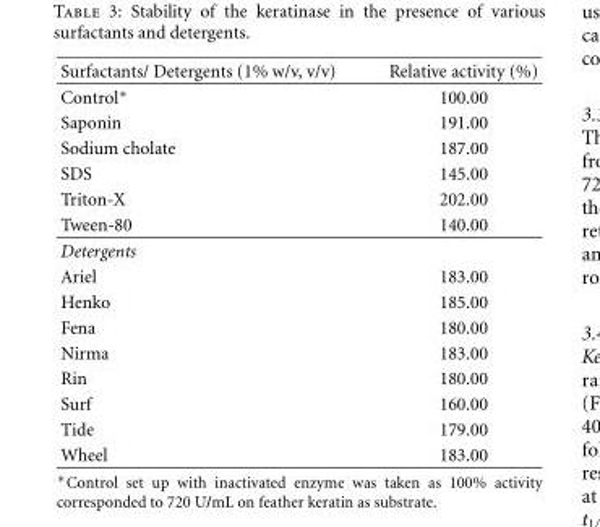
<table><thead><tr><td>Surfactants/ Detergents (1% w/v, v/v)</td><td>Relative activity (%)</td></tr></thead><tbody><tr><td>Control∗</td><td>100.00</td></tr><tr><td>Saponin</td><td>191.00</td></tr><tr><td>Sodium cholate</td><td>187.00</td></tr><tr><td>SDS</td><td>145.00</td></tr><tr><td>Triton-X</td><td>202.00</td></tr><tr><td>Tween-80</td><td>140.00</td></tr><tr><td colspan="2">Detergents</td></tr><tr><td>Ariel</td><td>183.00</td></tr><tr><td>Henko</td><td>185.00</td></tr><tr><td>Fena</td><td>180.00</td></tr><tr><td>Nirma</td><td>183.00</td></tr><tr><td>Rin</td><td>180.00</td></tr><tr><td>Surf</td><td>160.00</td></tr><tr><td>Tide</td><td>179.00</td></tr><tr><td>Wheel</td><td>183.00</td></tr></tbody></table>